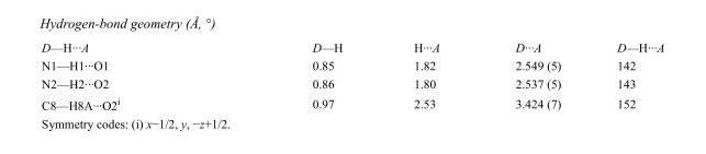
<table><tbody><tr><td>D—H···A</td><td>D—H</td><td>H···A</td><td>D···A</td><td>D—H···A</td></tr><tr><td>N1—H1···O1</td><td>0.85</td><td>1.82</td><td>2.549 (5)</td><td>142</td></tr><tr><td>N2—H2···O2</td><td>0.86</td><td>1.80</td><td>2.537 (5)</td><td>143</td></tr><tr><td>C8—H8A···O2<sup>i</sup></td><td>0.97</td><td>2.53</td><td>3.424 (7)</td><td>152</td></tr></tbody></table>